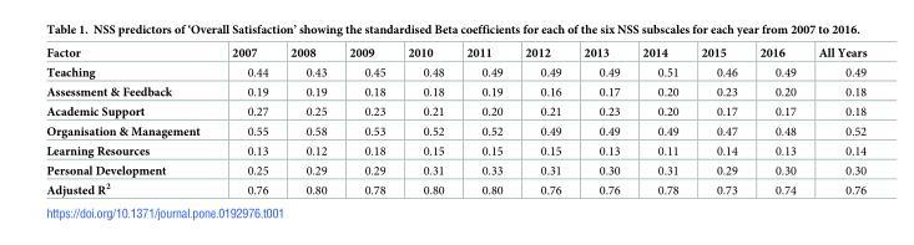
<table><thead><tr><td>Factor</td><td>2007</td><td>2008</td><td>2009</td><td>2010</td><td>2011</td><td>2012</td><td>2013</td><td>2014</td><td>2015</td><td>2016</td><td>All Years</td></tr></thead><tbody><tr><td>Teaching</td><td>0.44</td><td>0.43</td><td>0.45</td><td>0.48</td><td>0.49</td><td>0.49</td><td>0.49</td><td>0.51</td><td>0.46</td><td>0.49</td><td>0.49</td></tr><tr><td>Assessment &amp; Feedback</td><td>0.19</td><td>0.19</td><td>0.18</td><td>0.18</td><td>0.19</td><td>0.16</td><td>0.17</td><td>0.20</td><td>0.23</td><td>0.20</td><td>0.18</td></tr><tr><td>Academic Support</td><td>0.27</td><td>0.25</td><td>0.23</td><td>0.21</td><td>0.20</td><td>0.21</td><td>0.23</td><td>0.20</td><td>0.17</td><td>0.17</td><td>0.18</td></tr><tr><td>Organisation &amp; Management</td><td>0.55</td><td>0.58</td><td>0.53</td><td>0.52</td><td>0.52</td><td>0.49</td><td>0.49</td><td>0.49</td><td>0.47</td><td>0.48</td><td>0.52</td></tr><tr><td>Learning Resources</td><td>0.13</td><td>0.12</td><td>0.18</td><td>0.15</td><td>0.15</td><td>0.15</td><td>0.13</td><td>0.11</td><td>0.14</td><td>0.13</td><td>0.14</td></tr><tr><td>Personal Development</td><td>0.25</td><td>0.29</td><td>0.29</td><td>0.31</td><td>0.33</td><td>0.31</td><td>0.30</td><td>0.31</td><td>0.29</td><td>0.30</td><td>0.30</td></tr><tr><td>Adjusted R<sup>2</sup></td><td>0.76</td><td>0.80</td><td>0.78</td><td>0.80</td><td>0.80</td><td>0.76</td><td>0.76</td><td>0.78</td><td>0.73</td><td>0.74</td><td>0.76</td></tr></tbody></table>